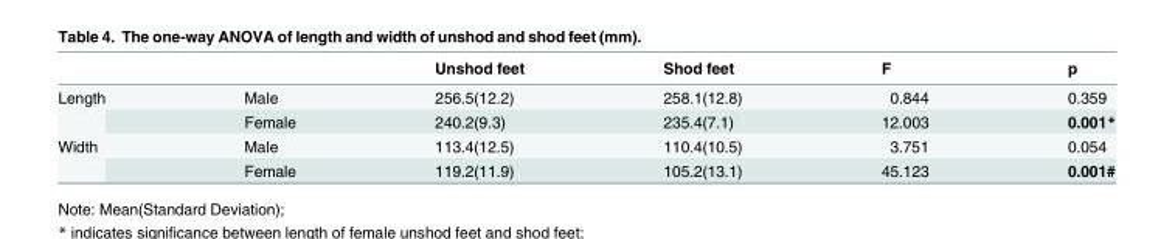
<table><thead><tr><td></td><td></td><td>Unshod feet</td><td>Shod feet</td><td>F</td><td>p</td></tr></thead><tbody><tr><td rowspan="2">Length</td><td>Male</td><td>256.5(12.2)</td><td>258.1(12.8)</td><td>0.844</td><td>0.359</td></tr><tr><td>Female</td><td>240.2(9.3)</td><td>235.4(7.1)</td><td>12.003</td><td>0.001*</td></tr><tr><td rowspan="2">Width</td><td>Male</td><td>113.4(12.5)</td><td>110.4(10.5)</td><td>3.751</td><td>0.054</td></tr><tr><td>Female</td><td>119.2(11.9)</td><td>105.2(13.1)</td><td>45.123</td><td>0.001#</td></tr></tbody></table>